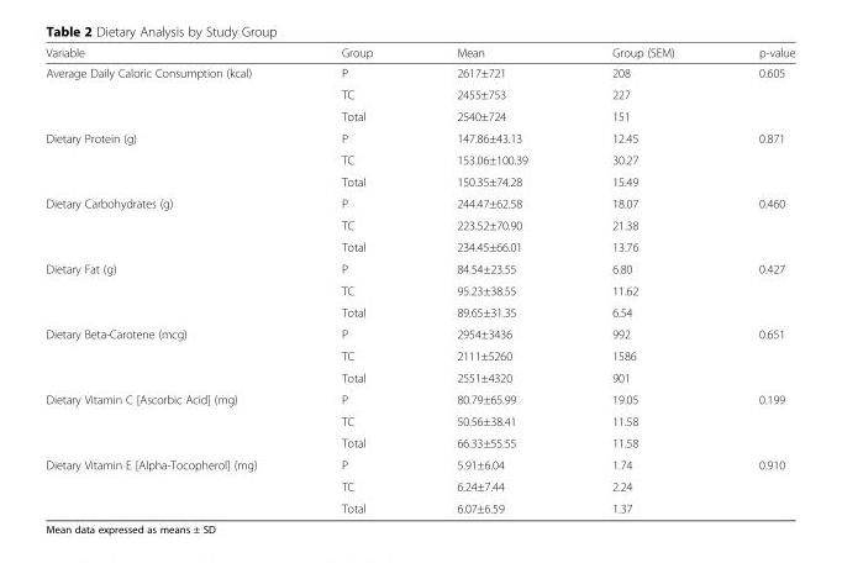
<table><thead><tr><td>Variable</td><td>Group</td><td>Mean</td><td>Group (SEM)</td><td>p-value</td></tr></thead><tbody><tr><td rowspan="3">Average Daily Caloric Consumption (kcal)</td><td>P</td><td>2617±721</td><td>208</td><td>0.605</td></tr><tr><td>TC</td><td>2455±753</td><td>227</td><td></td></tr><tr><td>Total</td><td>2540±724</td><td>151</td><td></td></tr><tr><td rowspan="3">Dietary Protein (g)</td><td>P</td><td>147.86±43.13</td><td>12.45</td><td>0.871</td></tr><tr><td>TC</td><td>153.06±100.39</td><td>30.27</td><td></td></tr><tr><td>Total</td><td>150.35±74.28</td><td>15.49</td><td></td></tr><tr><td rowspan="3">Dietary Carbohydrates (g)</td><td>P</td><td>244.47±62.58</td><td>18.07</td><td>0.460</td></tr><tr><td>TC</td><td>223.52±70.90</td><td>21.38</td><td></td></tr><tr><td>Total</td><td>234.45±66.01</td><td>13.76</td><td></td></tr><tr><td rowspan="3">Dietary Fat (g)</td><td>P</td><td>84.54±23.55</td><td>6.80</td><td>0.427</td></tr><tr><td>TC</td><td>95.23±38.55</td><td>11.62</td><td></td></tr><tr><td>Total</td><td>89.65±31.35</td><td>6.54</td><td></td></tr><tr><td rowspan="3">Dietary Beta-Carotene (mcg)</td><td>P</td><td>2954±3436</td><td>992</td><td>0.651</td></tr><tr><td>TC</td><td>2111±5260</td><td>1586</td><td></td></tr><tr><td>Total</td><td>2551±4320</td><td>901</td><td></td></tr><tr><td rowspan="3">Dietary Vitamin C [Ascorbic Acid] (mg)</td><td>P</td><td>80.79±65.99</td><td>19.05</td><td>0.199</td></tr><tr><td>TC</td><td>50.56±38.41</td><td>11.58</td><td></td></tr><tr><td>Total</td><td>66.33±55.55</td><td>11.58</td><td></td></tr><tr><td rowspan="3">Dietary Vitamin E [Alpha-Tocopherol] (mg)</td><td>P</td><td>5.91±6.04</td><td>1.74</td><td>0.910</td></tr><tr><td>TC</td><td>6.24±7.44</td><td>2.24</td><td></td></tr><tr><td>Total</td><td>6.07±6.59</td><td>1.37</td><td></td></tr></tbody></table>